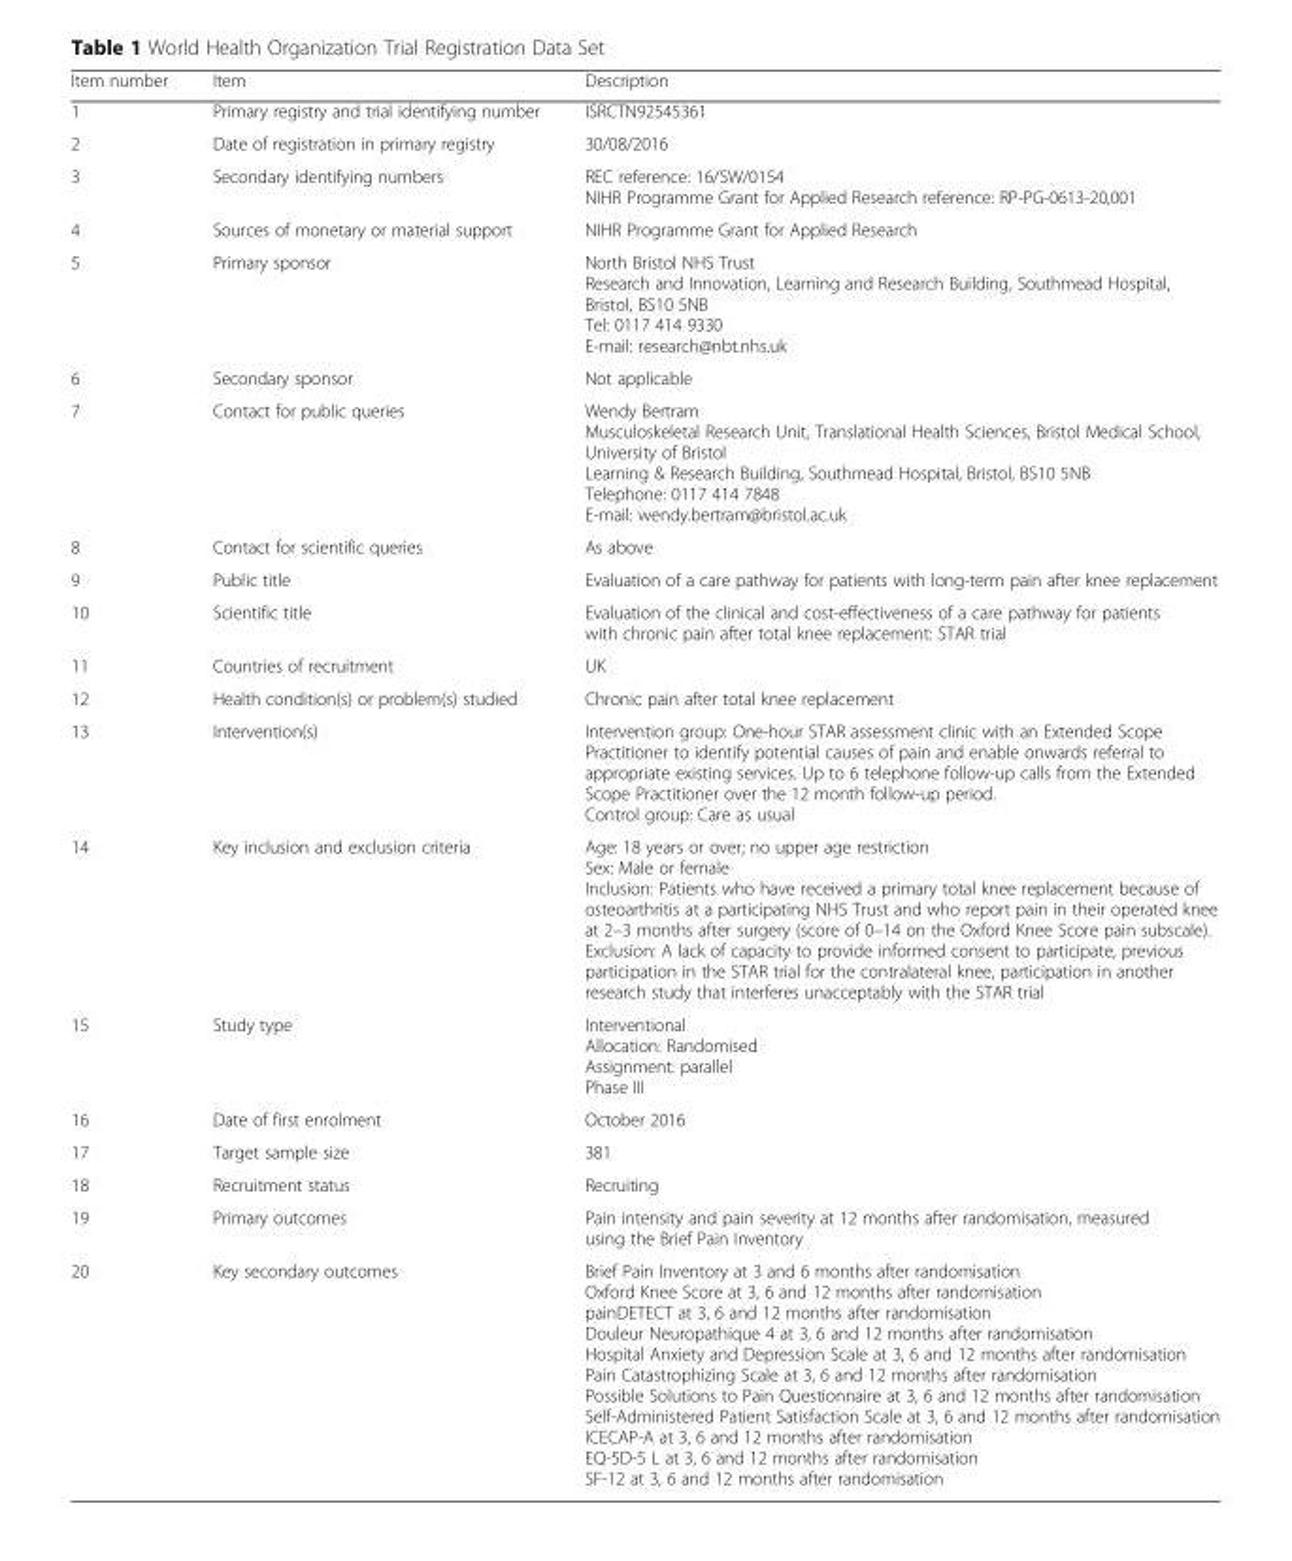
<table><thead><tr><td>Item number</td><td>Item</td><td>Description</td></tr></thead><tbody><tr><td>1</td><td>Primary registry and trial identifying number</td><td>ISRCTN92545361</td></tr><tr><td>2</td><td>Date of registration in primary registry</td><td>30/08/2016</td></tr><tr><td>3</td><td>Secondary identifying numbers</td><td>REC reference: 16/SW/0154 NIHR Programme Grant for Applied Research reference: RP-PG-0613-20,001</td></tr><tr><td>4</td><td>Sources of monetary or material support</td><td>NIHR Programme Grant for Applied Research</td></tr><tr><td>5</td><td>Primary sponsor</td><td>North Bristol NHS Trust Research and Innovation, Learning and Research Building, Southmead Hospital, Bristol, BS10 5NB Tel: 0117 414 9330 E-mail: research@nbt.nhs.uk</td></tr><tr><td>6</td><td>Secondary sponsor</td><td>Not applicable</td></tr><tr><td>7</td><td>Contact for public queries</td><td>Wendy Bertram Musculoskeletal Research Unit, Translational Health Sciences, Bristol Medical School, University of Bristol Learning &amp; Research Building, Southmead Hospital, Bristol, BS10 5NB Telephone: 0117 414 7848 E-mail: wendy.bertram@bristol.ac.uk</td></tr><tr><td>8</td><td>Contact for scientific queries</td><td>As above</td></tr><tr><td>9</td><td>Public title</td><td>Evaluation of a care pathway for patients with long-term pain after knee replacement</td></tr><tr><td>10</td><td>Scientific title</td><td>Evaluation of the clinical and cost-effectiveness of a care pathway for patients with chronic pain after total knee replacement: STAR trial</td></tr><tr><td>11</td><td>Countries of recruitment</td><td>UK</td></tr><tr><td>12</td><td>Health condition(s) or problem(s) studied</td><td>Chronic pain after total knee replacement</td></tr><tr><td>13</td><td>Intervention(s)</td><td>Intervention group: One-hour STAR assessment clinic with an Extended Scope Practitioner to identify potential causes of pain and enable onwards referral to appropriate existing services. Up to 6 telephone follow-up calls from the Extended Scope Practitioner over the 12 month follow-up period. Control group: Care as usual</td></tr><tr><td>14</td><td>Key inclusion and exclusion criteria</td><td>Age: 18 years or over; no upper age restriction Sex: Male or female Inclusion: Patients who have received a primary total knee replacement because of osteoarthritis at a participating NHS Trust and who report pain in their operated knee at 2–3 months after surgery (score of 0–14 on the Oxford Knee Score pain subscale). Exclusion: A lack of capacity to provide informed consent to participate, previous participation in the STAR trial for the contralateral knee, participation in another research study that interferes unacceptably with the STAR trial</td></tr><tr><td>15</td><td>Study type</td><td>Interventional Allocation: Randomised Assignment: parallel Phase III</td></tr><tr><td>16</td><td>Date of first enrolment</td><td>October 2016</td></tr><tr><td>17</td><td>Target sample size</td><td>381</td></tr><tr><td>18</td><td>Recruitment status</td><td>Recruiting</td></tr><tr><td>19</td><td>Primary outcomes</td><td>Pain intensity and pain severity at 12 months after randomisation, measured using the Brief Pain Inventory</td></tr><tr><td>20</td><td>Key secondary outcomes</td><td>Brief Pain Inventory at 3 and 6 months after randomisation Oxford Knee Score at 3, 6 and 12 months after randomisation painDETECT at 3, 6 and 12 months after randomisation Douleur Neuropathique 4 at 3, 6 and 12 months after randomisation Hospital Anxiety and Depression Scale at 3, 6 and 12 months after randomisation Pain Catastrophizing Scale at 3, 6 and 12 months after randomisation Possible Solutions to Pain Questionnaire at 3, 6 and 12 months after randomisation Self-Administered Patient Satisfaction Scale at 3, 6 and 12 months after randomisation ICECAP-A at 3, 6 and 12 months after randomisation EQ-5D-5 L at 3, 6 and 12 months after randomisation SF-12 at 3, 6 and 12 months after randomisation</td></tr></tbody></table>